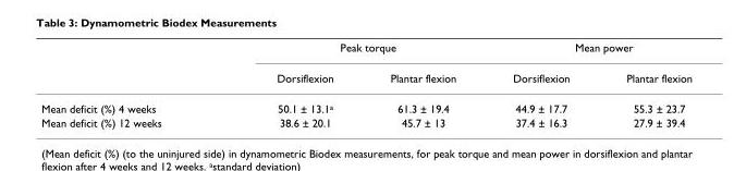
<table><thead><tr><td rowspan="2"></td><td colspan="2">Peak torque</td><td colspan="2">Mean power</td></tr><tr><td>Dorsiflexion</td><td>Plantar flexion</td><td>Dorsiflexion</td><td>Plantar flexion</td></tr></thead><tbody><tr><td>Mean deficit (%) 4 weeks</td><td>50.1 ± 13.1<sup>a</sup></td><td>61.3 ± 19.4</td><td>44.9 ± 17.7</td><td>55.3 ± 23.7</td></tr><tr><td>Mean deficit (%) 12 weeks</td><td>38.6 ± 20.1</td><td>45.7 ± 13</td><td>37.4 ± 16.3</td><td>27.9 ± 39.4</td></tr></tbody></table>